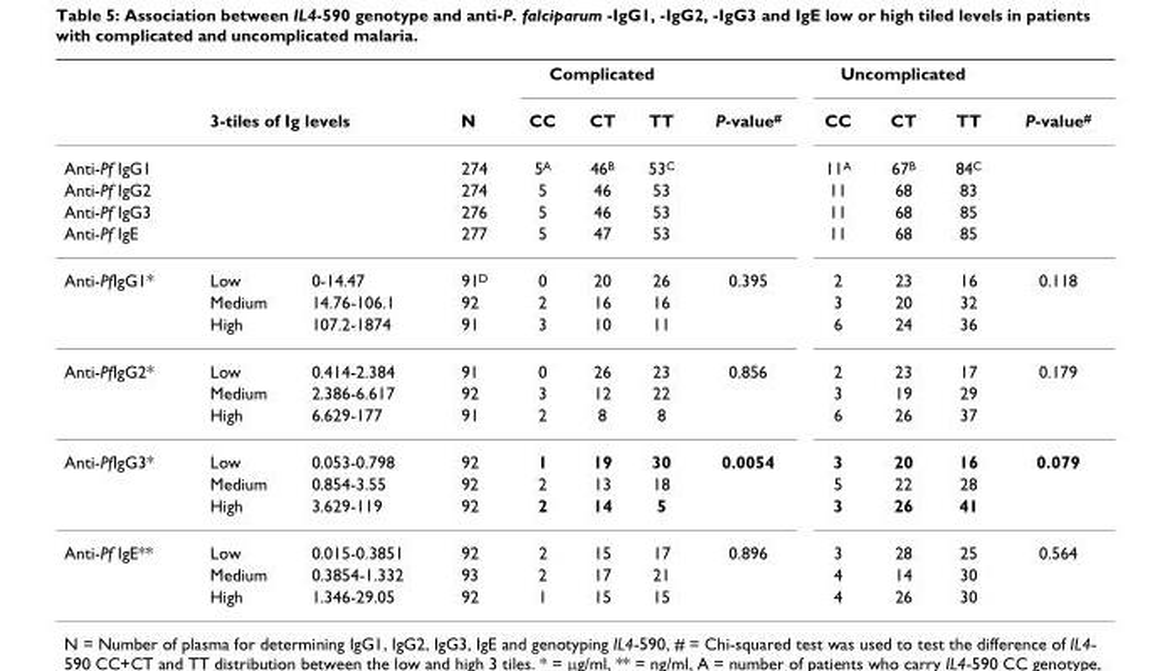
<table><thead><tr><td rowspan="2"></td><td></td><td></td><td rowspan="2">N</td><td colspan="3">Complicated</td><td rowspan="2">P-value<sup>#</sup></td><td colspan="3">Uncomplicated</td><td rowspan="2">P-value<sup>#</sup></td></tr><tr><td colspan="2">3-tiles of Ig levels</td><td>CC</td><td>CT</td><td>TT</td><td>CC</td><td>CT</td><td>TT</td></tr></thead><tbody><tr><td>Anti-Pf IgG1</td><td></td><td></td><td>274</td><td>5<sup>A</sup></td><td>46<sup>B</sup></td><td>53<sup>C</sup></td><td></td><td>11<sup>A</sup></td><td>67<sup>B</sup></td><td>84<sup>C</sup></td><td></td></tr><tr><td>Anti-Pf IgG2</td><td></td><td></td><td>274</td><td>5</td><td>46</td><td>53</td><td></td><td>11</td><td>68</td><td>83</td><td></td></tr><tr><td>Anti-Pf IgG3</td><td></td><td></td><td>276</td><td>5</td><td>46</td><td>53</td><td></td><td>11</td><td>68</td><td>85</td><td></td></tr><tr><td>Anti-Pf IgE</td><td></td><td></td><td>277</td><td>5</td><td>47</td><td>53</td><td></td><td>11</td><td>68</td><td>85</td><td></td></tr><tr><td rowspan="3">Anti-PfIgG1*</td><td>Low</td><td>0-14.47</td><td>91<sup>D</sup></td><td>0</td><td>20</td><td>26</td><td>0.395</td><td>2</td><td>23</td><td>16</td><td>0.118</td></tr><tr><td>Medium</td><td>14.76-106.1</td><td>92</td><td>2</td><td>16</td><td>16</td><td></td><td>3</td><td>20</td><td>32</td><td></td></tr><tr><td>High</td><td>107.2-1874</td><td>91</td><td>3</td><td>10</td><td>11</td><td></td><td>6</td><td>24</td><td>36</td><td></td></tr><tr><td rowspan="3">Anti-PfIgG2*</td><td>Low</td><td>0.414-2.384</td><td>91</td><td>0</td><td>26</td><td>23</td><td>0.856</td><td>2</td><td>23</td><td>17</td><td>0.179</td></tr><tr><td>Medium</td><td>2.386-6.617</td><td>92</td><td>3</td><td>12</td><td>22</td><td></td><td>3</td><td>19</td><td>29</td><td></td></tr><tr><td>High</td><td>6.629-177</td><td>91</td><td>2</td><td>8</td><td>8</td><td></td><td>6</td><td>26</td><td>37</td><td></td></tr><tr><td rowspan="3">Anti-PfIgG3*</td><td>Low</td><td>0.053-0.798</td><td>92</td><td>1</td><td>19</td><td>30</td><td>0.0054</td><td>3</td><td>20</td><td>16</td><td>0.079</td></tr><tr><td>Medium</td><td>0.854-3.55</td><td>92</td><td>2</td><td>13</td><td>18</td><td></td><td>5</td><td>22</td><td>28</td><td></td></tr><tr><td>High</td><td>3.629-119</td><td>92</td><td>2</td><td>14</td><td>5</td><td></td><td>3</td><td>26</td><td>41</td><td></td></tr><tr><td rowspan="3">Anti-Pf IgE**</td><td>Low</td><td>0.015-0.3851</td><td>92</td><td>2</td><td>15</td><td>17</td><td>0.896</td><td>3</td><td>28</td><td>25</td><td>0.564</td></tr><tr><td>Medium</td><td>0.3854-1.332</td><td>93</td><td>2</td><td>17</td><td>21</td><td></td><td>4</td><td>14</td><td>30</td><td></td></tr><tr><td>High</td><td>1.346-29.05</td><td>92</td><td>1</td><td>15</td><td>15</td><td></td><td>4</td><td>26</td><td>30</td><td></td></tr></tbody></table>